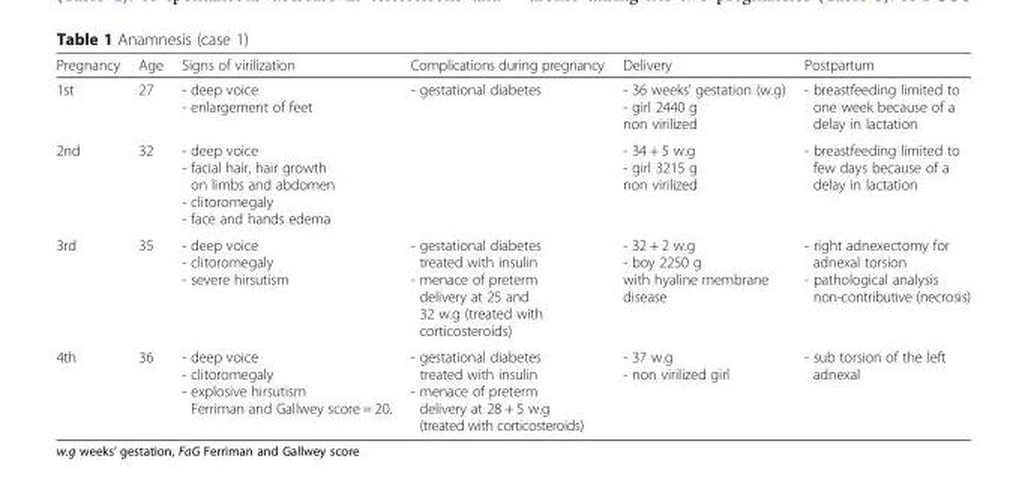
<table><thead><tr><td>Pregnancy</td><td>Age</td><td>Signs of virilization</td><td>Complications during pregnancy</td><td>Delivery</td><td>Postpartum</td></tr></thead><tbody><tr><td>1st</td><td>27</td><td>- deep voice - enlargement of feet</td><td>- gestational diabetes</td><td>- 36 weeks’ gestation (w.g) - girl 2440 g non virilized</td><td>- breastfeeding limited to one week because of a delay in lactation</td></tr><tr><td>2nd</td><td>32</td><td>- deep voice - facial hair, hair growth on limbs and abdomen - clitoromegaly - face and hands edema</td><td></td><td>- 34 + 5 w.g - girl 3215 g non virilized</td><td>- breastfeeding limited to few days because of a delay in lactation</td></tr><tr><td>3rd</td><td>35</td><td>- deep voice - clitoromegaly - severe hirsutism</td><td>- gestational diabetes treated with insulin - menace of preterm delivery at 25 and 32 w.g (treated with corticosteroids)</td><td>- 32 + 2 w.g - boy 2250 g with hyaline membrane disease</td><td>- right adnexectomy for adnexal torsion - pathological analysis non-contributive (necrosis)</td></tr><tr><td>4th</td><td>36</td><td>- deep voice - clitoromegaly - explosive hirsutism Ferriman and Gallwey score = 20.</td><td>- gestational diabetes treated with insulin - menace of preterm delivery at 28 + 5 w.g (treated with corticosteroids)</td><td>- 37 w.g - non virilized girl</td><td>- sub torsion of the left adnexal</td></tr></tbody></table>